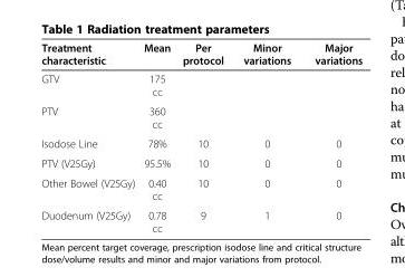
<table><thead><tr><td>Treatment characteristic</td><td>Mean</td><td>Per protocol</td><td>Minor variations</td><td>Major variations</td></tr></thead><tbody><tr><td>GTV</td><td>175 cc</td><td></td><td></td><td></td></tr><tr><td>PTV</td><td>360 cc</td><td></td><td></td><td></td></tr><tr><td>Isodose Line</td><td>78%</td><td>10</td><td>0</td><td>0</td></tr><tr><td>PTV (V25Gy)</td><td>95.5%</td><td>10</td><td>0</td><td>0</td></tr><tr><td>Other Bowel (V25Gy)</td><td>0.40 cc</td><td>10</td><td>0</td><td>0</td></tr><tr><td>Duodenum (V25Gy)</td><td>0.78 cc</td><td>9</td><td>1</td><td>0</td></tr></tbody></table>